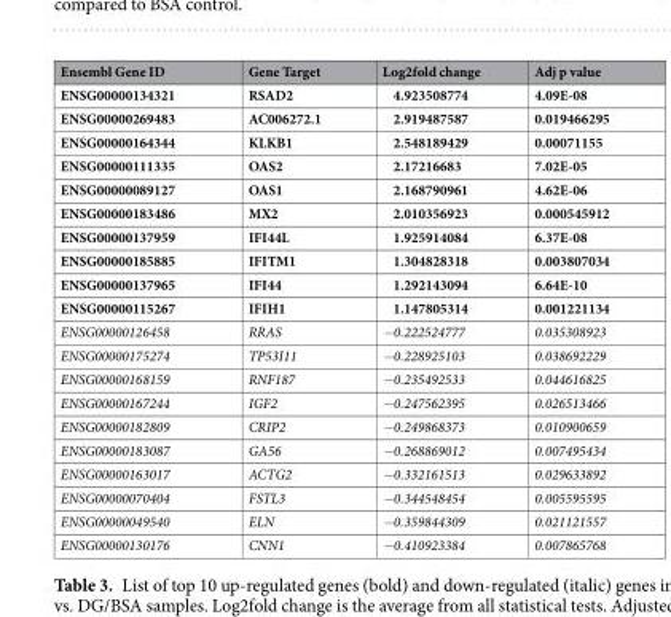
<table><thead><tr><td>Ensembl Gene ID</td><td>Gene Target</td><td>Log2fold change</td><td>Adj p value</td></tr></thead><tbody><tr><td>ENSG00000134321</td><td>RSAD2</td><td>4.923508774</td><td>4.09E-08</td></tr><tr><td>ENSG00000269483</td><td>AC006272.1</td><td>2.919487587</td><td>0.019466295</td></tr><tr><td>ENSG00000164344</td><td>KLKB1</td><td>2.548189429</td><td>0.00071155</td></tr><tr><td>ENSG00000111335</td><td>OAS2</td><td>2.17216683</td><td>7.02E-05</td></tr><tr><td>ENSG00000089127</td><td>OAS1</td><td>2.168790961</td><td>4.62E-06</td></tr><tr><td>ENSG00000183486</td><td>MX2</td><td>2.010356923</td><td>0.000545912</td></tr><tr><td>ENSG00000137959</td><td>IFI44L</td><td>1.925914084</td><td>6.37E-08</td></tr><tr><td>ENSG00000185885</td><td>IFITM1</td><td>1.304828318</td><td>0.003807034</td></tr><tr><td>ENSG00000137965</td><td>IFI44</td><td>1.292143094</td><td>6.64E-10</td></tr><tr><td>ENSG00000115267</td><td>IFIH1</td><td>1.147805314</td><td>0.001221134</td></tr><tr><td>ENSG00000126458</td><td>RRAS</td><td>−0.222524777</td><td>0.035308923</td></tr><tr><td>ENSG00000175274</td><td>TP53I11</td><td>−0.228925103</td><td>0.038692229</td></tr><tr><td>ENSG00000168159</td><td>RNF187</td><td>−0.235492533</td><td>0.044616825</td></tr><tr><td>ENSG00000167244</td><td>IGF2</td><td>−0.247562395</td><td>0.026513466</td></tr><tr><td>ENSG00000182809</td><td>CRIP2</td><td>−0.249868373</td><td>0.010900659</td></tr><tr><td>ENSG00000183087</td><td>GA56</td><td>−0.268869012</td><td>0.007495434</td></tr><tr><td>ENSG00000163017</td><td>ACTG2</td><td>−0.332161513</td><td>0.029633892</td></tr><tr><td>ENSG00000070404</td><td>FSTL3</td><td>−0.344548454</td><td>0.005595595</td></tr><tr><td>ENSG00000049540</td><td>ELN</td><td>−0.359844309</td><td>0.021121557</td></tr><tr><td>ENSG00000130176</td><td>CNN1</td><td>−0.410923384</td><td>0.007865768</td></tr></tbody></table>